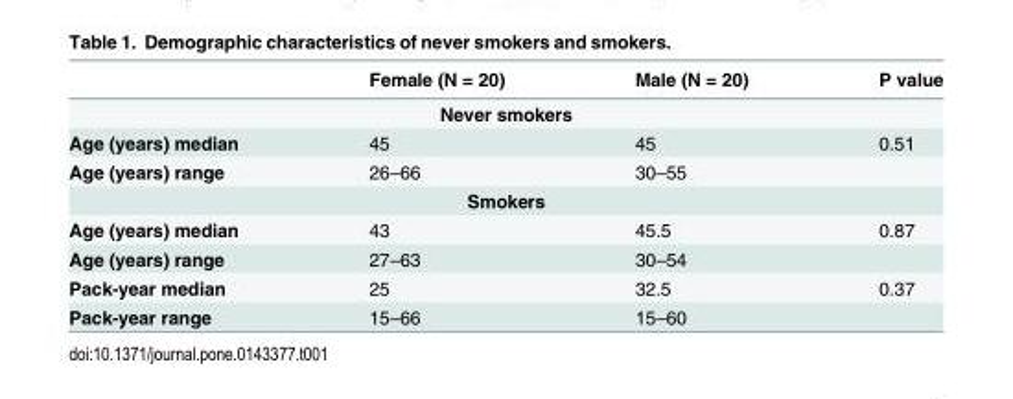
<table><thead><tr><td></td><td>Female (N = 20)</td><td>Male (N = 20)</td><td>P value</td></tr></thead><tbody><tr><td colspan="4">Never smokers</td></tr><tr><td>Age (years) median</td><td>45</td><td>45</td><td>0.51</td></tr><tr><td>Age (years) range</td><td>26–66</td><td>30–55</td><td></td></tr><tr><td colspan="4">Smokers</td></tr><tr><td>Age (years) median</td><td>43</td><td>45.5</td><td>0.87</td></tr><tr><td>Age (years) range</td><td>27–63</td><td>30–54</td><td></td></tr><tr><td>Pack-year median</td><td>25</td><td>32.5</td><td>0.37</td></tr><tr><td>Pack-year range</td><td>15–66</td><td>15–60</td><td></td></tr></tbody></table>